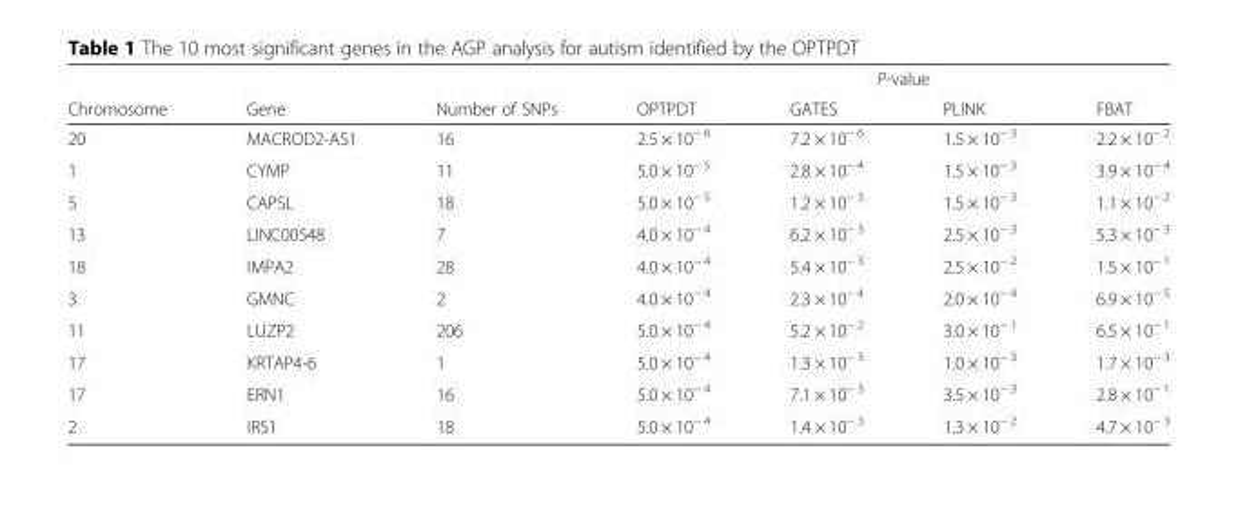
<table><thead><tr><td rowspan="2">Chromosome</td><td rowspan="2">Gene</td><td rowspan="2">Number of SNPs</td><td colspan="4">P-value</td></tr><tr><td>OPTPDT</td><td>GATES</td><td>PLINK</td><td>FBAT</td></tr></thead><tbody><tr><td>20</td><td>MACROD2-AS1</td><td>16</td><td>2.5 × 10<sup>− 6</sup></td><td>7.2 × 10<sup>− 6</sup></td><td>1.5 × 10<sup>− 3</sup></td><td>2.2 × 10<sup>− 2</sup></td></tr><tr><td>1</td><td>CYMP</td><td>11</td><td>5.0 × 10<sup>− 5</sup></td><td>2.8 × 10<sup>− 4</sup></td><td>1.5 × 10<sup>− 3</sup></td><td>3.9 × 10<sup>− 4</sup></td></tr><tr><td>5</td><td>CAPSL</td><td>18</td><td>5.0 × 10<sup>− 5</sup></td><td>1.2 × 10<sup>− 3</sup></td><td>1.5 × 10<sup>− 3</sup></td><td>1.1 × 10<sup>− 2</sup></td></tr><tr><td>13</td><td>LINC00548</td><td>7</td><td>4.0 × 10<sup>− 4</sup></td><td>6.2 × 10<sup>− 3</sup></td><td>2.5 × 10<sup>− 3</sup></td><td>5.3 × 10<sup>− 3</sup></td></tr><tr><td>18</td><td>IMPA2</td><td>28</td><td>4.0 × 10<sup>− 4</sup></td><td>5.4 × 10<sup>− 3</sup></td><td>2.5 × 10<sup>− 2</sup></td><td>1.5 × 10<sup>− 1</sup></td></tr><tr><td>3</td><td>GMNC</td><td>2</td><td>4.0 × 10<sup>− 4</sup></td><td>2.3 × 10<sup>− 4</sup></td><td>2.0 × 10<sup>− 4</sup></td><td>6.9 × 10<sup>− 5</sup></td></tr><tr><td>11</td><td>LUZP2</td><td>206</td><td>5.0 × 10<sup>− 4</sup></td><td>5.2 × 10<sup>− 2</sup></td><td>3.0 × 10<sup>− 1</sup></td><td>6.5 × 10<sup>− 1</sup></td></tr><tr><td>17</td><td>KRTAP4-6</td><td>1</td><td>5.0 × 10<sup>− 4</sup></td><td>1.3 × 10<sup>− 3</sup></td><td>1.0 × 10<sup>− 3</sup></td><td>1.7 × 10<sup>− 3</sup></td></tr><tr><td>17</td><td>ERN1</td><td>16</td><td>5.0 × 10<sup>− 4</sup></td><td>7.1 × 10<sup>− 3</sup></td><td>3.5 × 10<sup>− 3</sup></td><td>2.8 × 10<sup>− 1</sup></td></tr><tr><td>2</td><td>IRS1</td><td>18</td><td>5.0 × 10<sup>− 4</sup></td><td>1.4 × 10<sup>− 3</sup></td><td>1.3 × 10<sup>− 2</sup></td><td>4.7 × 10<sup>− 3</sup></td></tr></tbody></table>